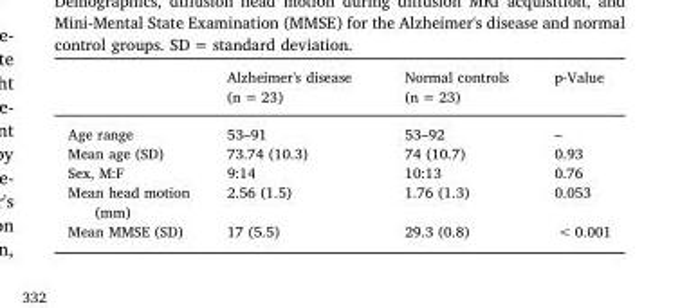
<table><thead><tr><td></td><td>Alzheimer&#x27;s disease (n = 23)</td><td>Normal controls (n = 23)</td><td>p-Value</td></tr></thead><tbody><tr><td>Age range</td><td>53–91</td><td>53–92</td><td>–</td></tr><tr><td>Mean age (SD)</td><td>73.74 (10.3)</td><td>74 (10.7)</td><td>0.93</td></tr><tr><td>Sex, M:F</td><td>9:14</td><td>10:13</td><td>0.76</td></tr><tr><td>Mean head motion (mm)</td><td>2.56 (1.5)</td><td>1.76 (1.3)</td><td>0.053</td></tr><tr><td>Mean MMSE (SD)</td><td>17 (5.5)</td><td>29.3 (0.8)</td><td>&lt; 0.001</td></tr></tbody></table>